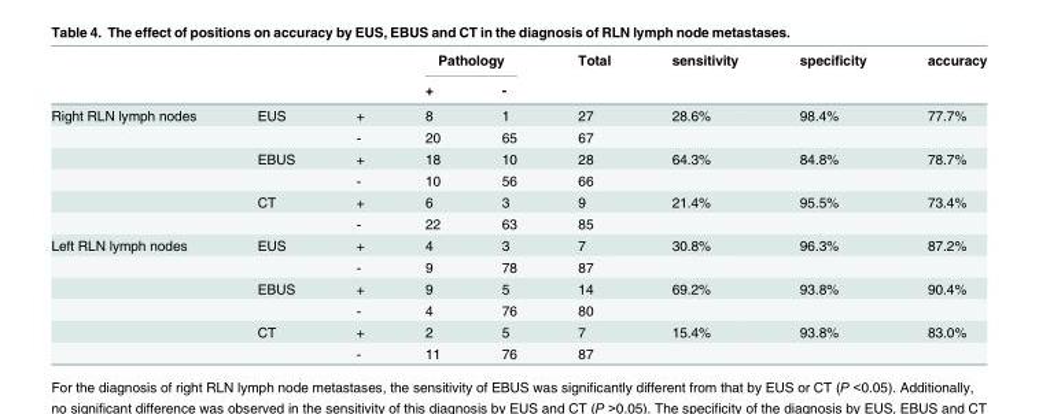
<table><thead><tr><td rowspan="2"></td><td rowspan="2"></td><td rowspan="2"></td><td colspan="2">Pathology</td><td rowspan="2">Total</td><td rowspan="2">sensitivity</td><td rowspan="2">specificity</td><td rowspan="2">accuracy</td></tr><tr><td>+</td><td>-</td></tr></thead><tbody><tr><td rowspan="6">Right RLN lymph nodes</td><td>EUS</td><td>+</td><td>8</td><td>1</td><td>27</td><td>28.6%</td><td>98.4%</td><td>77.7%</td></tr><tr><td></td><td>-</td><td>20</td><td>65</td><td>67</td><td></td><td></td><td></td></tr><tr><td>EBUS</td><td>+</td><td>18</td><td>10</td><td>28</td><td>64.3%</td><td>84.8%</td><td>78.7%</td></tr><tr><td></td><td>-</td><td>10</td><td>56</td><td>66</td><td></td><td></td><td></td></tr><tr><td>CT</td><td>+</td><td>6</td><td>3</td><td>9</td><td>21.4%</td><td>95.5%</td><td>73.4%</td></tr><tr><td></td><td>-</td><td>22</td><td>63</td><td>85</td><td></td><td></td><td></td></tr><tr><td rowspan="6">Left RLN lymph nodes</td><td>EUS</td><td>+</td><td>4</td><td>3</td><td>7</td><td>30.8%</td><td>96.3%</td><td>87.2%</td></tr><tr><td></td><td>-</td><td>9</td><td>78</td><td>87</td><td></td><td></td><td></td></tr><tr><td>EBUS</td><td>+</td><td>9</td><td>5</td><td>14</td><td>69.2%</td><td>93.8%</td><td>90.4%</td></tr><tr><td></td><td>-</td><td>4</td><td>76</td><td>80</td><td></td><td></td><td></td></tr><tr><td>CT</td><td>+</td><td>2</td><td>5</td><td>7</td><td>15.4%</td><td>93.8%</td><td>83.0%</td></tr><tr><td></td><td>-</td><td>11</td><td>76</td><td>87</td><td></td><td></td><td></td></tr></tbody></table>